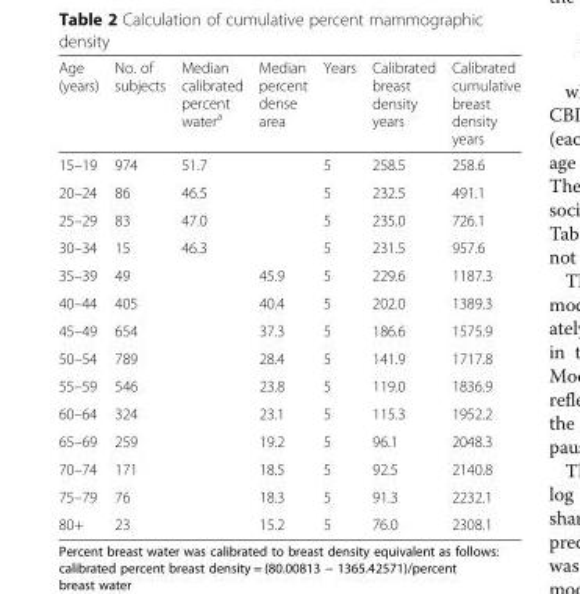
<table><thead><tr><td>Age (years)</td><td>No. of subjects</td><td>Median calibrated percent water<sup>a</sup></td><td>Median percent dense area</td><td>Years</td><td>Calibrated breast density years</td><td>Calibrated cumulative breast density years</td></tr></thead><tbody><tr><td>15–19</td><td>974</td><td>51.7</td><td></td><td>5</td><td>258.5</td><td>258.6</td></tr><tr><td>20–24</td><td>86</td><td>46.5</td><td></td><td>5</td><td>232.5</td><td>491.1</td></tr><tr><td>25–29</td><td>83</td><td>47.0</td><td></td><td>5</td><td>235.0</td><td>726.1</td></tr><tr><td>30–34</td><td>15</td><td>46.3</td><td></td><td>5</td><td>231.5</td><td>957.6</td></tr><tr><td>35–39</td><td>49</td><td></td><td>45.9</td><td>5</td><td>229.6</td><td>1187.3</td></tr><tr><td>40–44</td><td>405</td><td></td><td>40.4</td><td>5</td><td>202.0</td><td>1389.3</td></tr><tr><td>45–49</td><td>654</td><td></td><td>37.3</td><td>5</td><td>186.6</td><td>1575.9</td></tr><tr><td>50–54</td><td>789</td><td></td><td>28.4</td><td>5</td><td>141.9</td><td>1717.8</td></tr><tr><td>55–59</td><td>546</td><td></td><td>23.8</td><td>5</td><td>119.0</td><td>1836.9</td></tr><tr><td>60–64</td><td>324</td><td></td><td>23.1</td><td>5</td><td>115.3</td><td>1952.2</td></tr><tr><td>65–69</td><td>259</td><td></td><td>19.2</td><td>5</td><td>96.1</td><td>2048.3</td></tr><tr><td>70–74</td><td>171</td><td></td><td>18.5</td><td>5</td><td>92.5</td><td>2140.8</td></tr><tr><td>75–79</td><td>76</td><td></td><td>18.3</td><td>5</td><td>91.3</td><td>2232.1</td></tr><tr><td>80+</td><td>23</td><td></td><td>15.2</td><td>5</td><td>76.0</td><td>2308.1</td></tr></tbody></table>